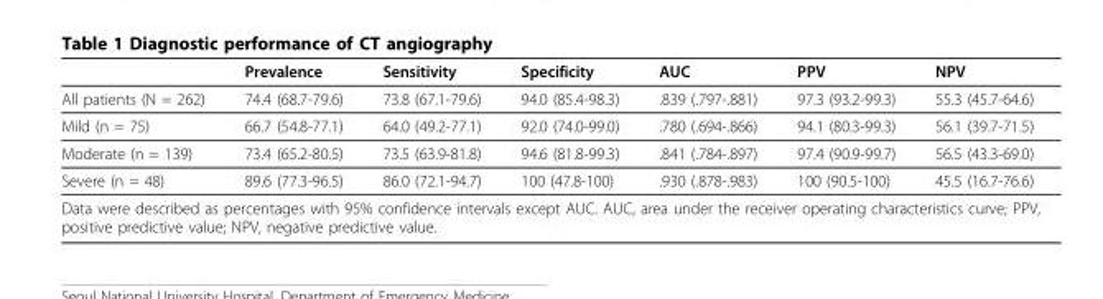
<table><thead><tr><td></td><td>Prevalence</td><td>Sensitivity</td><td>Specificity</td><td>AUC</td><td>PPV</td><td>NPV</td></tr></thead><tbody><tr><td>All patients (N = 262)</td><td>74.4 (68.7-79.6)</td><td>73.8 (67.1-79.6)</td><td>94.0 (85.4-98.3)</td><td>.839 (.797-.881)</td><td>97.3 (93.2-99.3)</td><td>55.3 (45.7-64.6)</td></tr><tr><td>Mild (n = 75)</td><td>66.7 (54.8-77.1)</td><td>64.0 (49.2-77.1)</td><td>92.0 (74.0-99.0)</td><td>.780 (.694-.866)</td><td>94.1 (80.3-99.3)</td><td>56.1 (39.7-71.5)</td></tr><tr><td>Moderate (n = 139)</td><td>73.4 (65.2-80.5)</td><td>73.5 (63.9-81.8)</td><td>94.6 (81.8-99.3)</td><td>.841 (.784-.897)</td><td>97.4 (90.9-99.7)</td><td>56.5 (43.3-69.0)</td></tr><tr><td>Severe (n = 48)</td><td>89.6 (77.3-96.5)</td><td>86.0 (72.1-94.7)</td><td>100 (47.8-100)</td><td>.930 (.878-.983)</td><td>100 (90.5-100)</td><td>45.5 (16.7-76.6)</td></tr><tr><td colspan="7">Data were described as percentages with 95% confidence intervals except AUC. AUC, area under the receiver operating characteristics curve; PPV, positive predictive value; NPV, negative predictive value.</td></tr></tbody></table>